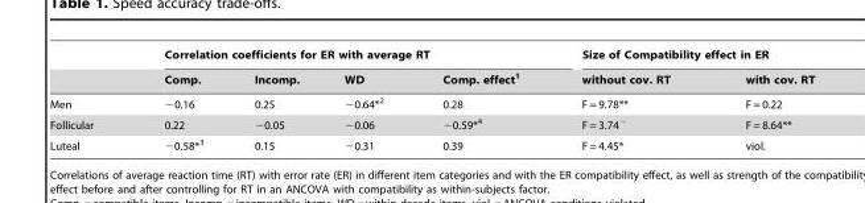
<table><thead><tr><td rowspan="2"></td><td colspan="4">Correlation coefficients for ER with average RT</td><td colspan="2">Size of Compatibility effect in ER</td></tr><tr><td>Comp.</td><td>Incomp.</td><td>WD</td><td>Comp. effect<sup>1</sup></td><td>without cov. RT</td><td>with cov. RT</td></tr></thead><tbody><tr><td>Men</td><td>−0.16</td><td>0.25</td><td>−0.64*2</td><td>0.28</td><td>F = 9.78**</td><td>F = 0.22</td></tr><tr><td>Follicular</td><td>0.22</td><td>−0.05</td><td>−0.06</td><td>−0.59*4</td><td>F = 3.74∼</td><td>F = 8.64**</td></tr><tr><td>Luteal</td><td>−0.58*3</td><td>0.15</td><td>−0.31</td><td>0.39</td><td>F = 4.45*</td><td>viol.</td></tr></tbody></table>